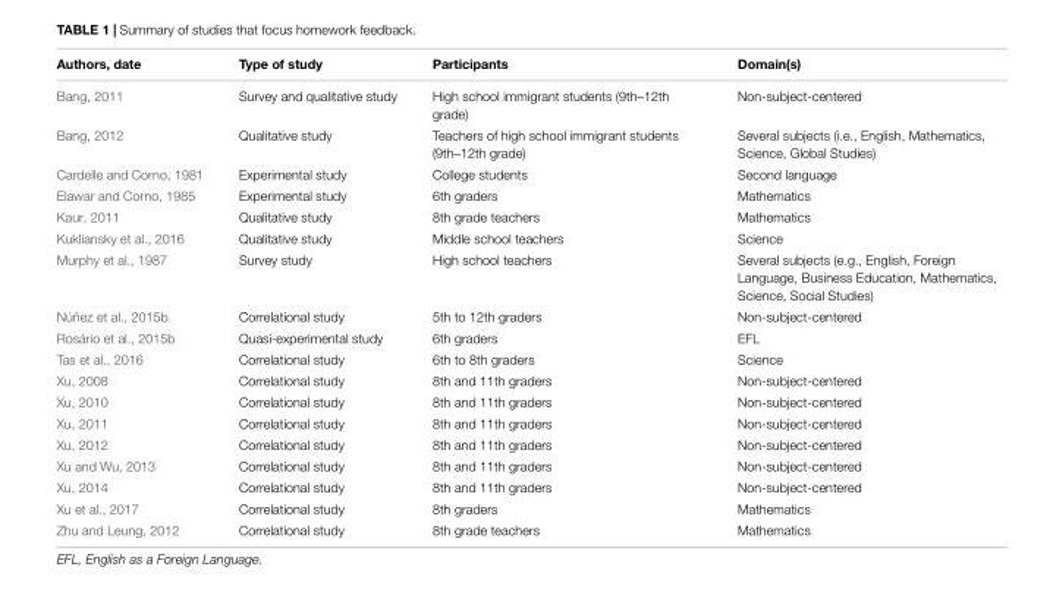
<table><thead><tr><td>Authors, date</td><td>Type of study</td><td>Participants</td><td>Domain(s)</td></tr></thead><tbody><tr><td>Bang, 2011</td><td>Survey and qualitative study</td><td>High school immigrant students (9th–12th grade)</td><td>Non-subject-centered</td></tr><tr><td>Bang, 2012</td><td>Qualitative study</td><td>Teachers of high school immigrant students (9th–12th grade)</td><td>Several subjects (i.e., English, Mathematics, Science, Global Studies)</td></tr><tr><td>Cardelle and Corno, 1981</td><td>Experimental study</td><td>College students</td><td>Second language</td></tr><tr><td>Elawar and Corno, 1985</td><td>Experimental study</td><td>6th graders</td><td>Mathematics</td></tr><tr><td>Kaur, 2011</td><td>Qualitative study</td><td>8th grade teachers</td><td>Mathematics</td></tr><tr><td>Kukliansky et al., 2016</td><td>Qualitative study</td><td>Middle school teachers</td><td>Science</td></tr><tr><td>Murphy et al., 1987</td><td>Survey study</td><td>High school teachers</td><td>Several subjects (e.g., English, Foreign Language, Business Education, Mathematics, Science, Social Studies)</td></tr><tr><td>Núñez et al., 2015b</td><td>Correlational study</td><td>5th to 12th graders</td><td>Non-subject-centered</td></tr><tr><td>Rosário et al., 2015b</td><td>Quasi-experimental study</td><td>6th graders</td><td>EFL</td></tr><tr><td>Tas et al., 2016</td><td>Correlational study</td><td>6th to 8th graders</td><td>Science</td></tr><tr><td>Xu, 2008</td><td>Correlational study</td><td>8th and 11th graders</td><td>Non-subject-centered</td></tr><tr><td>Xu, 2010</td><td>Correlational study</td><td>8th and 11th graders</td><td>Non-subject-centered</td></tr><tr><td>Xu, 2011</td><td>Correlational study</td><td>8th and 11th graders</td><td>Non-subject-centered</td></tr><tr><td>Xu, 2012</td><td>Correlational study</td><td>8th and 11th graders</td><td>Non-subject-centered</td></tr><tr><td>Xu and Wu, 2013</td><td>Correlational study</td><td>8th and 11th graders</td><td>Non-subject-centered</td></tr><tr><td>Xu, 2014</td><td>Correlational study</td><td>8th and 11th graders</td><td>Non-subject-centered</td></tr><tr><td>Xu et al., 2017</td><td>Correlational study</td><td>8th graders</td><td>Mathematics</td></tr><tr><td>Zhu and Leung, 2012</td><td>Correlational study</td><td>8th grade teachers</td><td>Mathematics</td></tr></tbody></table>